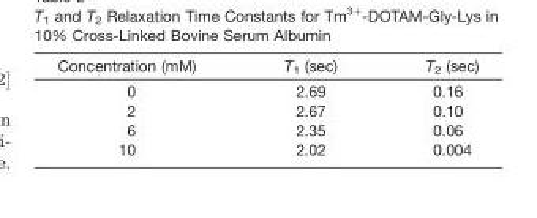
<table><thead><tr><td>Concentration (mM)</td><td>T<sub>1</sub> (sec)</td><td>T<sub>2</sub> (sec)</td></tr></thead><tbody><tr><td>0</td><td>2.69</td><td>0.16</td></tr><tr><td>2</td><td>2.67</td><td>0.10</td></tr><tr><td>6</td><td>2.35</td><td>0.06</td></tr><tr><td>10</td><td>2.02</td><td>0.004</td></tr></tbody></table>